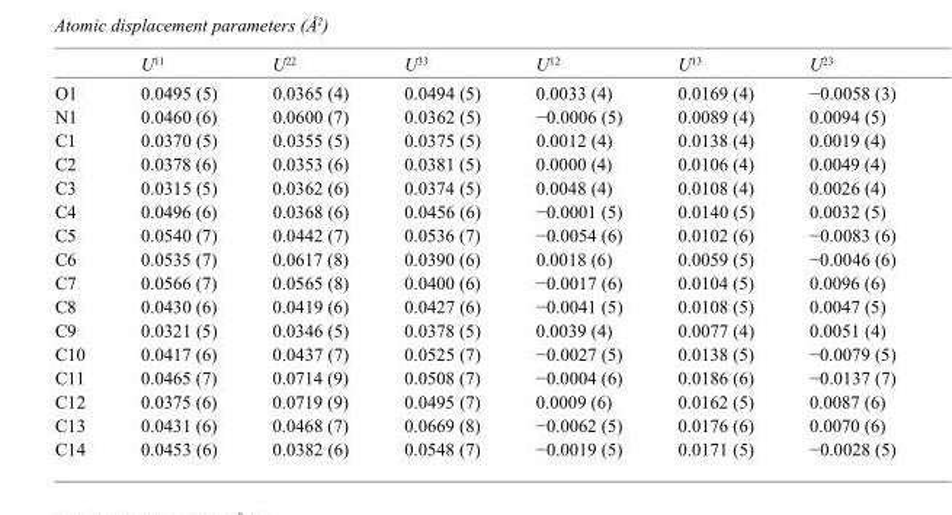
<table><thead><tr><td></td><td>U<sup>11</sup></td><td>U<sup>22</sup></td><td>U<sup>33</sup></td><td>U<sup>12</sup></td><td>U<sup>13</sup></td><td>U<sup>23</sup></td></tr></thead><tbody><tr><td>O1</td><td>0.0495 (5)</td><td>0.0365 (4)</td><td>0.0494 (5)</td><td>0.0033 (4)</td><td>0.0169 (4)</td><td>−0.0058 (3)</td></tr><tr><td>N1</td><td>0.0460 (6)</td><td>0.0600 (7)</td><td>0.0362 (5)</td><td>−0.0006 (5)</td><td>0.0089 (4)</td><td>0.0094 (5)</td></tr><tr><td>C1</td><td>0.0370 (5)</td><td>0.0355 (5)</td><td>0.0375 (5)</td><td>0.0012 (4)</td><td>0.0138 (4)</td><td>0.0019 (4)</td></tr><tr><td>C2</td><td>0.0378 (6)</td><td>0.0353 (6)</td><td>0.0381 (5)</td><td>0.0000 (4)</td><td>0.0106 (4)</td><td>0.0049 (4)</td></tr><tr><td>C3</td><td>0.0315 (5)</td><td>0.0362 (6)</td><td>0.0374 (5)</td><td>0.0048 (4)</td><td>0.0108 (4)</td><td>0.0026 (4)</td></tr><tr><td>C4</td><td>0.0496 (6)</td><td>0.0368 (6)</td><td>0.0456 (6)</td><td>−0.0001 (5)</td><td>0.0140 (5)</td><td>0.0032 (5)</td></tr><tr><td>C5</td><td>0.0540 (7)</td><td>0.0442 (7)</td><td>0.0536 (7)</td><td>−0.0054 (6)</td><td>0.0102 (6)</td><td>−0.0083 (6)</td></tr><tr><td>C6</td><td>0.0535 (7)</td><td>0.0617 (8)</td><td>0.0390 (6)</td><td>0.0018 (6)</td><td>0.0059 (5)</td><td>−0.0046 (6)</td></tr><tr><td>C7</td><td>0.0566 (7)</td><td>0.0565 (8)</td><td>0.0400 (6)</td><td>−0.0017 (6)</td><td>0.0104 (5)</td><td>0.0096 (6)</td></tr><tr><td>C8</td><td>0.0430 (6)</td><td>0.0419 (6)</td><td>0.0427 (6)</td><td>−0.0041 (5)</td><td>0.0108 (5)</td><td>0.0047 (5)</td></tr><tr><td>C9</td><td>0.0321 (5)</td><td>0.0346 (5)</td><td>0.0378 (5)</td><td>0.0039 (4)</td><td>0.0077 (4)</td><td>0.0051 (4)</td></tr><tr><td>C10</td><td>0.0417 (6)</td><td>0.0437 (7)</td><td>0.0525 (7)</td><td>−0.0027 (5)</td><td>0.0138 (5)</td><td>−0.0079 (5)</td></tr><tr><td>C11</td><td>0.0465 (7)</td><td>0.0714 (9)</td><td>0.0508 (7)</td><td>−0.0004 (6)</td><td>0.0186 (6)</td><td>−0.0137 (7)</td></tr><tr><td>C12</td><td>0.0375 (6)</td><td>0.0719 (9)</td><td>0.0495 (7)</td><td>0.0009 (6)</td><td>0.0162 (5)</td><td>0.0087 (6)</td></tr><tr><td>C13</td><td>0.0431 (6)</td><td>0.0468 (7)</td><td>0.0669 (8)</td><td>−0.0062 (5)</td><td>0.0176 (6)</td><td>0.0070 (6)</td></tr><tr><td>C14</td><td>0.0453 (6)</td><td>0.0382 (6)</td><td>0.0548 (7)</td><td>−0.0019 (5)</td><td>0.0171 (5)</td><td>−0.0028 (5)</td></tr></tbody></table>